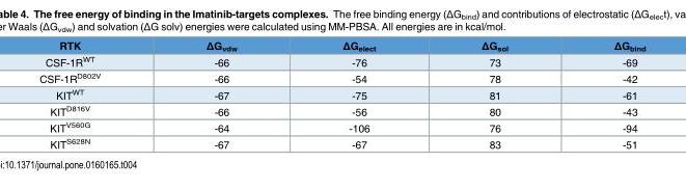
<table><thead><tr><td>RTK</td><td>ΔG<sub>vdw</sub></td><td>ΔG<sub>elect</sub></td><td>ΔG<sub>sol</sub></td><td>ΔG<sub>bind</sub></td></tr></thead><tbody><tr><td>CSF-1R<sup>WT</sup></td><td>-66</td><td>-76</td><td>73</td><td>-69</td></tr><tr><td>CSF-1R<sup>D802V</sup></td><td>-66</td><td>-54</td><td>78</td><td>-42</td></tr><tr><td>KIT<sup>WT</sup></td><td>-67</td><td>-75</td><td>81</td><td>-61</td></tr><tr><td>KIT<sup>D816V</sup></td><td>-66</td><td>-56</td><td>80</td><td>-43</td></tr><tr><td>KIT<sup>V560G</sup></td><td>-64</td><td>-106</td><td>76</td><td>-94</td></tr><tr><td>KIT<sup>S628N</sup></td><td>-67</td><td>-67</td><td>83</td><td>-51</td></tr></tbody></table>